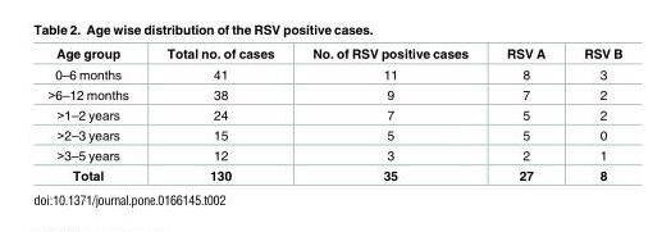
<table><thead><tr><td>Age group</td><td>Total no. of cases</td><td>No. of RSV positive cases</td><td>RSV A</td><td>RSV B</td></tr></thead><tbody><tr><td>0–6 months</td><td>41</td><td>11</td><td>8</td><td>3</td></tr><tr><td>&gt;6–12 months</td><td>38</td><td>9</td><td>7</td><td>2</td></tr><tr><td>&gt;1–2 years</td><td>24</td><td>7</td><td>5</td><td>2</td></tr><tr><td>&gt;2–3 years</td><td>15</td><td>5</td><td>5</td><td>0</td></tr><tr><td>&gt;3–5 years</td><td>12</td><td>3</td><td>2</td><td>1</td></tr><tr><td>Total</td><td>130</td><td>35</td><td>27</td><td>8</td></tr></tbody></table>